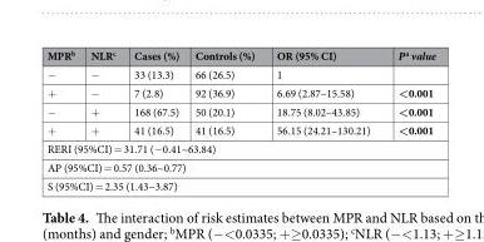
<table><thead><tr><td>MPR<sup>b</sup></td><td>NLR<sup>c</sup></td><td>Cases (%)</td><td>Controls (%)</td><td>OR (95% CI)</td><td>P <sup>a</sup> value</td></tr></thead><tbody><tr><td>−</td><td>−</td><td>33 (13.3)</td><td>66 (26.5)</td><td>1</td><td></td></tr><tr><td>+</td><td>−</td><td>7 (2.8)</td><td>92 (36.9)</td><td>6.69 (2.87–15.58)</td><td>&lt;0.001</td></tr><tr><td>−</td><td>+</td><td>168 (67.5)</td><td>50 (20.1)</td><td>18.75 (8.02–43.85)</td><td>&lt;0.001</td></tr><tr><td>+</td><td>+</td><td>41 (16.5)</td><td>41 (16.5)</td><td>56.15 (24.21–130.21)</td><td>&lt;0.001</td></tr><tr><td colspan="6">RERI (95%CI) = 31.71 (−0.41~63.84)</td></tr><tr><td colspan="6">AP (95%CI) = 0.57 (0.36~0.77)</td></tr><tr><td colspan="6">S (95%CI) = 2.35 (1.43~3.87)</td></tr></tbody></table>